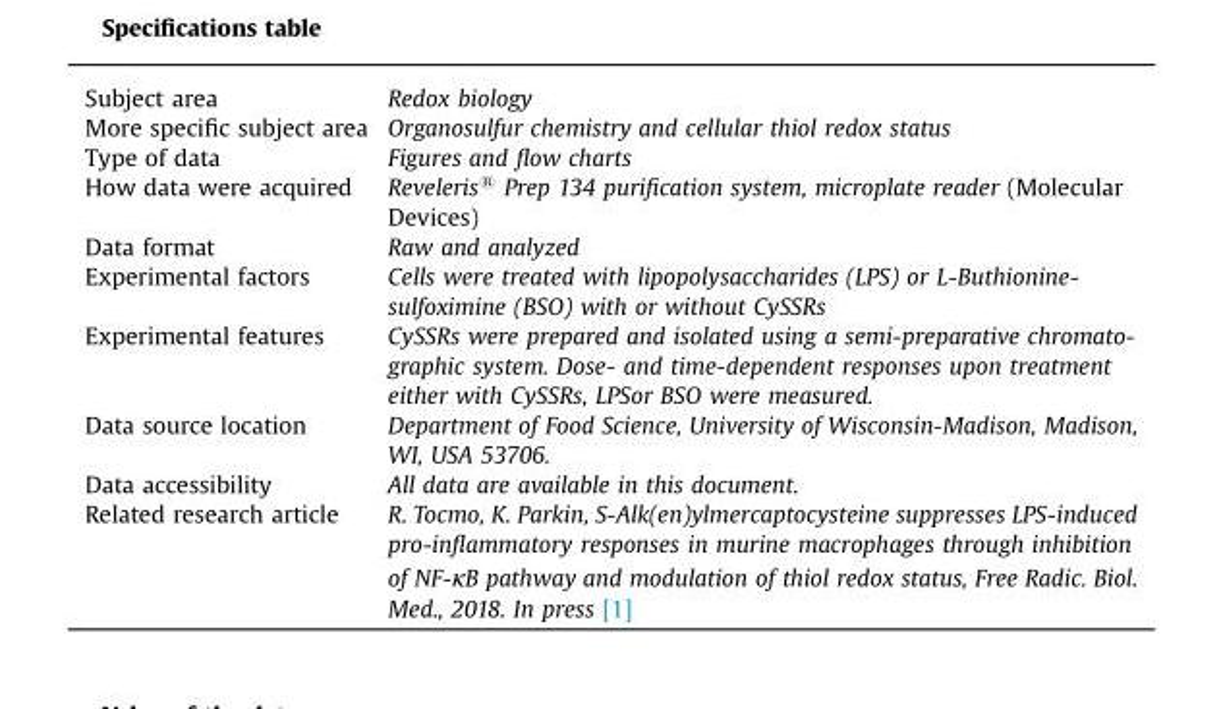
<table><thead><tr><td>Subject area</td><td>Redox biology</td></tr></thead><tbody><tr><td>More specific subject area</td><td>Organosulfur chemistry and cellular thiol redox status</td></tr><tr><td>Type of data</td><td>Figures and flow charts</td></tr><tr><td>How data were acquired</td><td>Reveleris® Prep 134 purification system, microplate reader (Molecular Devices)</td></tr><tr><td>Data format</td><td>Raw and analyzed</td></tr><tr><td>Experimental factors</td><td>Cells were treated with lipopolysaccharides (LPS) or L-Buthionine- sulfoximine (BSO) with or without CySSRs</td></tr><tr><td>Experimental features</td><td>CySSRs were prepared and isolated using a semi-preparative chromato- graphic system. Dose- and time-dependent responses upon treatment either with CySSRs, LPSor BSO were measured.</td></tr><tr><td>Data source location</td><td>Department of Food Science, University of Wisconsin-Madison, Madison, WI, USA 53706.</td></tr><tr><td>Data accessibility</td><td>All data are available in this document.</td></tr><tr><td>Related research article</td><td>R. Tocmo, K. Parkin, S-Alk(en)ylmercaptocysteine suppresses LPS-induced pro-inflammatory responses in murine macrophages through inhibition of NF-κB pathway and modulation of thiol redox status, Free Radic. Biol. Med., 2018. In press [1]</td></tr></tbody></table>